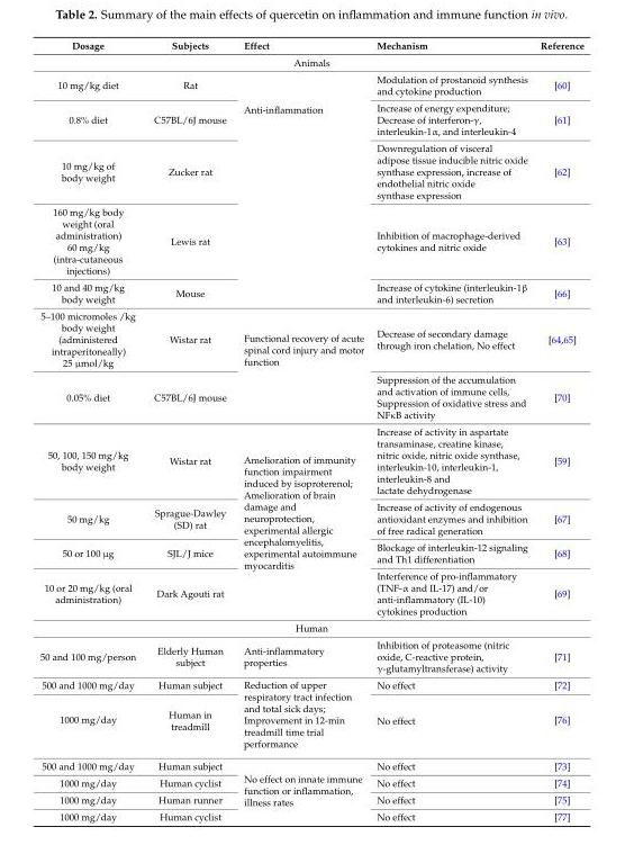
<table><thead><tr><td>Dosage</td><td>Subjects</td><td>Effect</td><td>Mechanism</td><td>Reference</td></tr></thead><tbody><tr><td colspan="5">Animals</td></tr><tr><td>10 mg/kg diet</td><td>Rat</td><td rowspan="5">Anti-inflammation</td><td>Modulation of prostanoid synthesis and cytokine production</td><td>[60]</td></tr><tr><td>0.8% diet</td><td>C57BL/6J mouse</td><td>Increase of energy expenditure; Decrease of interferon-γ, interleukin-1α, and interleukin-4</td><td>[61]</td></tr><tr><td>10 mg/kg of body weight</td><td>Zucker rat</td><td>Downregulation of visceral adipose tissue inducible nitric oxide synthase expression, increase of endothelial nitric oxide synthase expression</td><td>[62]</td></tr><tr><td>160 mg/kg body weight (oral administration) 60 mg/kg (intra-cutaneous injections)</td><td>Lewis rat</td><td>Inhibition of macrophage-derived cytokines and nitric oxide</td><td>[63]</td></tr><tr><td>10 and 40 mg/kg body weight</td><td>Mouse</td><td>Increase of cytokine (interleukin-1β and interleukin-6) secretion</td><td>[66]</td></tr><tr><td>5–100 micromoles /kg body weight (administered intraperitoneally) 25 µmol/kg</td><td>Wistar rat</td><td rowspan="2">Functional recovery of acute spinal cord injury and motor function</td><td>Decrease of secondary damage through iron chelation, No effect</td><td>[64,65]</td></tr><tr><td>0.05% diet</td><td>C57BL/6J mouse</td><td>Suppression of the accumulation and activation of immune cells, Suppression of oxidative stress and NFκB activity</td><td>[70]</td></tr><tr><td>50, 100, 150 mg/kg body weight</td><td>Wistar rat</td><td rowspan="4">Amelioration of immunity function impairment induced by isoproterenol; Amelioration of brain damage and neuroprotection, experimental allergic encephalomyelitis, experimental autoimmune myocarditis</td><td>Increase of activity in aspartate transaminase, creatine kinase, nitric oxide, nitric oxide synthase, interleukin-10, interleukin-1, interleukin-8 and lactate dehydrogenase</td><td>[59]</td></tr><tr><td>50 mg/kg</td><td>Sprague-Dawley (SD) rat</td><td>Increase of activity of endogenous antioxidant enzymes and inhibition of free radical generation</td><td>[67]</td></tr><tr><td>50 or 100 µg</td><td>SJL/J mice</td><td>Blockage of interleukin-12 signaling and Th1 differentiation</td><td>[68]</td></tr><tr><td>10 or 20 mg/kg (oral administration)</td><td>Dark Agouti rat</td><td>Interference of pro-inflammatory (TNF-α and IL-17) and/or anti-inflammatory (IL-10) cytokines production</td><td>[69]</td></tr><tr><td colspan="5">Human</td></tr><tr><td>50 and 100 mg/person</td><td>Elderly Human subject</td><td>Anti-inflammatory properties</td><td>Inhibition of proteasome (nitric oxide, C-reactive protein, γ-glutamyltransferase) activity</td><td>[71]</td></tr><tr><td>500 and 1000 mg/day</td><td>Human subject</td><td rowspan="2">Reduction of upper respiratory tract infection and total sick days; Improvement in 12-min treadmill time trial performance</td><td>No effect</td><td>[72]</td></tr><tr><td>1000 mg/day</td><td>Human in treadmill</td><td>No effect</td><td>[76]</td></tr><tr><td>500 and 1000 mg/day</td><td>Human subject</td><td rowspan="4">No effect on innate immune function or inflammation, illness rates</td><td>No effect</td><td>[73]</td></tr><tr><td>1000 mg/day</td><td>Human cyclist</td><td>No effect</td><td>[74]</td></tr><tr><td>1000 mg/day</td><td>Human runner</td><td>No effect</td><td>[75]</td></tr><tr><td>1000 mg/day</td><td>Human cyclist</td><td>No effect</td><td>[77]</td></tr></tbody></table>